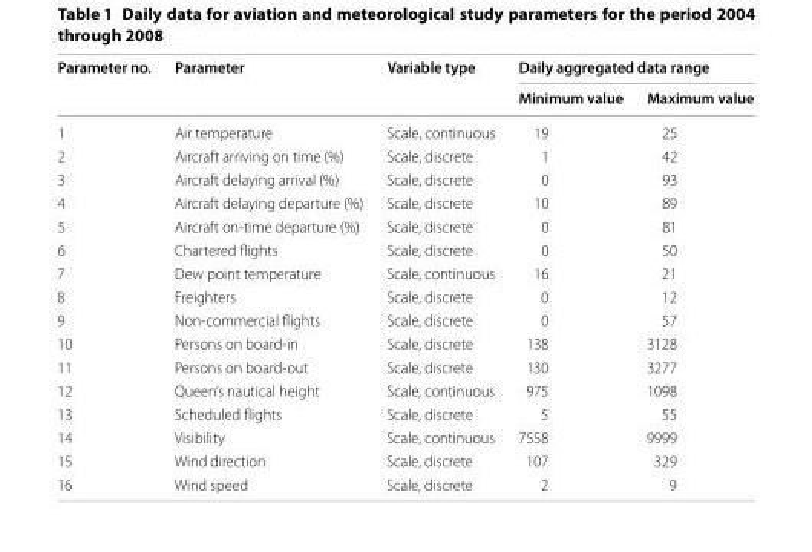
<table><thead><tr><td rowspan="2">Parameter no.</td><td rowspan="2">Parameter</td><td rowspan="2">Variable type</td><td colspan="2">Daily aggregated data range</td></tr><tr><td>Minimum value</td><td>Maximum value</td></tr></thead><tbody><tr><td>1</td><td>Air temperature</td><td>Scale, continuous</td><td>19</td><td>25</td></tr><tr><td>2</td><td>Aircraft arriving on time (%)</td><td>Scale, discrete</td><td>1</td><td>42</td></tr><tr><td>3</td><td>Aircraft delaying arrival (%)</td><td>Scale, discrete</td><td>0</td><td>93</td></tr><tr><td>4</td><td>Aircraft delaying departure (%)</td><td>Scale, discrete</td><td>10</td><td>89</td></tr><tr><td>5</td><td>Aircraft on-time departure (%)</td><td>Scale, discrete</td><td>0</td><td>81</td></tr><tr><td>6</td><td>Chartered flights</td><td>Scale, discrete</td><td>0</td><td>50</td></tr><tr><td>7</td><td>Dew point temperature</td><td>Scale, continuous</td><td>16</td><td>21</td></tr><tr><td>8</td><td>Freighters</td><td>Scale, discrete</td><td>0</td><td>12</td></tr><tr><td>9</td><td>Non-commercial flights</td><td>Scale, discrete</td><td>0</td><td>57</td></tr><tr><td>10</td><td>Persons on board-in</td><td>Scale, discrete</td><td>138</td><td>3128</td></tr><tr><td>11</td><td>Persons on board-out</td><td>Scale, discrete</td><td>130</td><td>3277</td></tr><tr><td>12</td><td>Queen’s nautical height</td><td>Scale, continuous</td><td>975</td><td>1098</td></tr><tr><td>13</td><td>Scheduled flights</td><td>Scale, discrete</td><td>5</td><td>55</td></tr><tr><td>14</td><td>Visibility</td><td>Scale, continuous</td><td>7558</td><td>9999</td></tr><tr><td>15</td><td>Wind direction</td><td>Scale, discrete</td><td>107</td><td>329</td></tr><tr><td>16</td><td>Wind speed</td><td>Scale, discrete</td><td>2</td><td>9</td></tr></tbody></table>